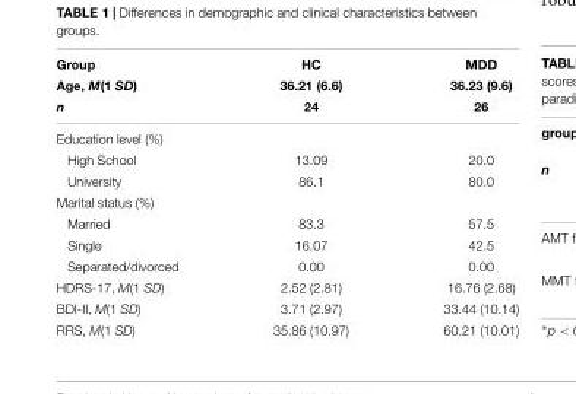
<table><thead><tr><td rowspan="3">Group Age, M(1 SD) n</td><td rowspan="3">HC 36.21 (6.6) 24</td><td rowspan="3">MDD 36.23 (9.6) 26</td></tr><tr></tr><tr></tr></thead><tbody><tr><td colspan="3">Education level (%)</td></tr><tr><td>High School</td><td>13.09</td><td>20.0</td></tr><tr><td>University</td><td>86.1</td><td>80.0</td></tr><tr><td colspan="3">Marital status (%)</td></tr><tr><td>Married</td><td>83.3</td><td>57.5</td></tr><tr><td>Single</td><td>16.07</td><td>42.5</td></tr><tr><td>Separated/divorced</td><td>0.00</td><td>0.00</td></tr><tr><td>HDRS-17, M(1 SD)</td><td>2.52 (2.81)</td><td>16.76 (2.68)</td></tr><tr><td>BDI-II, M(1 SD)</td><td>3.71 (2.97)</td><td>33.44 (10.14)</td></tr><tr><td>RRS, M(1 SD)</td><td>35.86 (10.97)</td><td>60.21 (10.01)</td></tr></tbody></table>